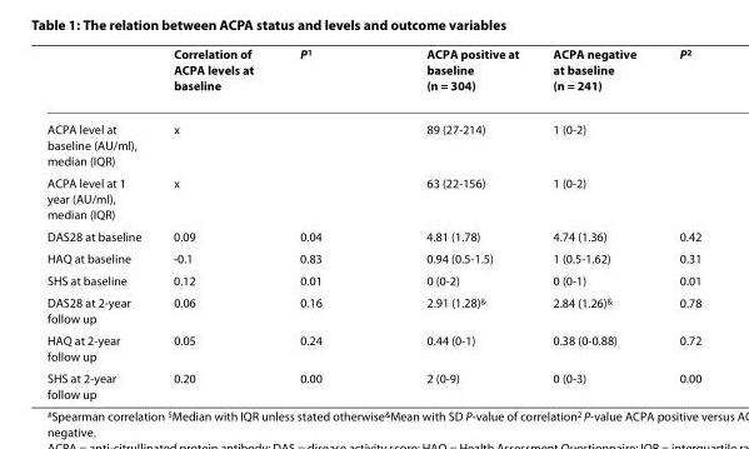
<table><thead><tr><td></td><td>Correlation of ACPA levels at baseline</td><td>P<sup>1</sup></td><td>ACPA positive at baseline (n = 304)</td><td>ACPA negative at baseline (n = 241)</td><td>P<sup>2</sup></td></tr></thead><tbody><tr><td>ACPA level at baseline (AU/ml), median (IQR)</td><td>x</td><td></td><td>89 (27-214)</td><td>1 (0-2)</td><td></td></tr><tr><td>ACPA level at 1 year (AU/ml), median (IQR)</td><td>x</td><td></td><td>63 (22-156)</td><td>1 (0-2)</td><td></td></tr><tr><td>DAS28 at baseline</td><td>0.09</td><td>0.04</td><td>4.81 (1.78)</td><td>4.74 (1.36)</td><td>0.42</td></tr><tr><td>HAQ at baseline</td><td>-0.1</td><td>0.83</td><td>0.94 (0.5-1.5)</td><td>1 (0.5-1.62)</td><td>0.31</td></tr><tr><td>SHS at baseline</td><td>0.12</td><td>0.01</td><td>0 (0-2)</td><td>0 (0-1)</td><td>0.01</td></tr><tr><td>DAS28 at 2-year follow up</td><td>0.06</td><td>0.16</td><td>2.91 (1.28)<sup>&amp;</sup></td><td>2.84 (1.26)<sup>&amp;</sup></td><td>0.78</td></tr><tr><td>HAQ at 2-year follow up</td><td>0.05</td><td>0.24</td><td>0.44 (0-1)</td><td>0.38 (0-0.88)</td><td>0.72</td></tr><tr><td>SHS at 2-year follow up</td><td>0.20</td><td>0.00</td><td>2 (0-9)</td><td>0 (0-3)</td><td>0.00</td></tr></tbody></table>